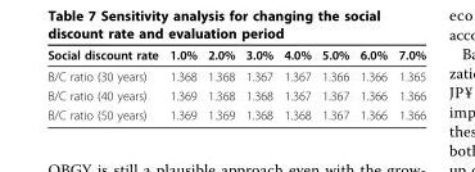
<table><thead><tr><td>Social discount rate</td><td>1.0%</td><td>2.0%</td><td>3.0%</td><td>4.0%</td><td>5.0%</td><td>6.0%</td><td>7.0%</td></tr></thead><tbody><tr><td>B/C ratio (30 years)</td><td>1.368</td><td>1.368</td><td>1.367</td><td>1.367</td><td>1.366</td><td>1.366</td><td>1.365</td></tr><tr><td>B/C ratio (40 years)</td><td>1.369</td><td>1.368</td><td>1.368</td><td>1.367</td><td>1.367</td><td>1.366</td><td>1.366</td></tr><tr><td>B/C ratio (50 years)</td><td>1.369</td><td>1.369</td><td>1.368</td><td>1.368</td><td>1.367</td><td>1.366</td><td>1.366</td></tr></tbody></table>